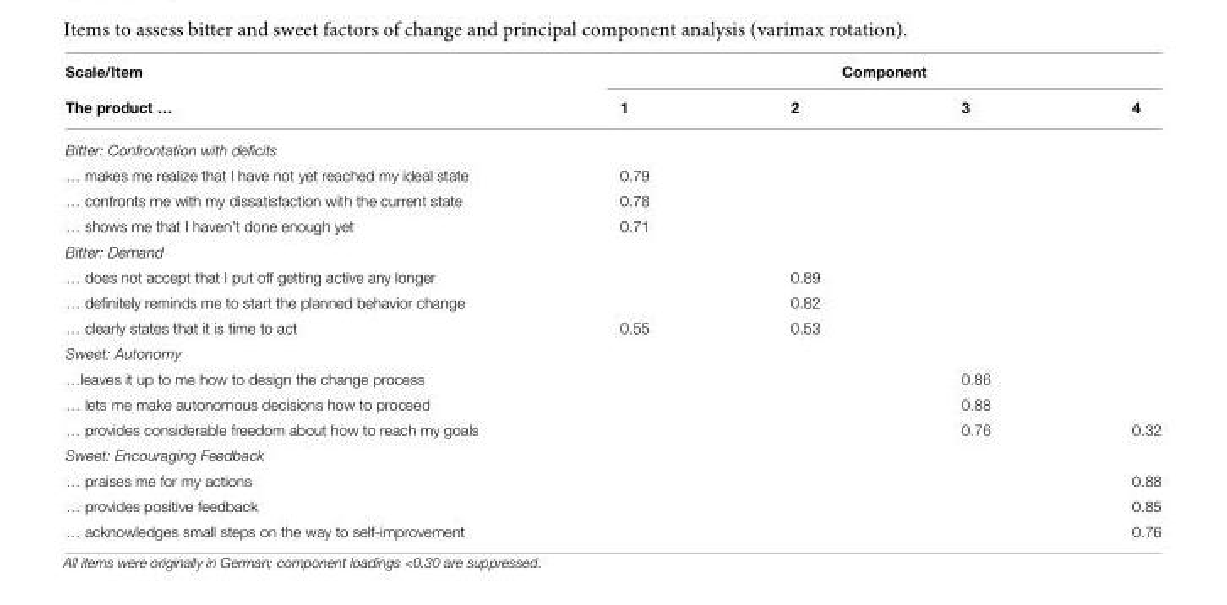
<table><thead><tr><td rowspan="2">Scale/Item The product …</td><td colspan="4">Component</td></tr><tr><td>1</td><td>2</td><td>3</td><td>4</td></tr></thead><tbody><tr><td colspan="5">Bitter: Confrontation with deficits</td></tr><tr><td>… makes me realize that I have not yet reached my ideal state</td><td>0.79</td><td></td><td></td><td></td></tr><tr><td>… confronts me with my dissatisfaction with the current state</td><td>0.78</td><td></td><td></td><td></td></tr><tr><td>… shows me that I haven’t done enough yet</td><td>0.71</td><td></td><td></td><td></td></tr><tr><td colspan="5">Bitter: Demand</td></tr><tr><td>… does not accept that I put off getting active any longer</td><td></td><td>0.89</td><td></td><td></td></tr><tr><td>… definitely reminds me to start the planned behavior change</td><td></td><td>0.82</td><td></td><td></td></tr><tr><td>… clearly states that it is time to act</td><td>0.55</td><td>0.53</td><td></td><td></td></tr><tr><td colspan="5">Sweet: Autonomy</td></tr><tr><td>…leaves it up to me how to design the change process</td><td></td><td></td><td>0.86</td><td></td></tr><tr><td>… lets me make autonomous decisions how to proceed</td><td></td><td></td><td>0.88</td><td></td></tr><tr><td>… provides considerable freedom about how to reach my goals</td><td></td><td></td><td>0.76</td><td>0.32</td></tr><tr><td colspan="5">Sweet: Encouraging Feedback</td></tr><tr><td>… praises me for my actions</td><td></td><td></td><td></td><td>0.88</td></tr><tr><td>… provides positive feedback</td><td></td><td></td><td></td><td>0.85</td></tr><tr><td>… acknowledges small steps on the way to self-improvement</td><td></td><td></td><td></td><td>0.76</td></tr></tbody></table>